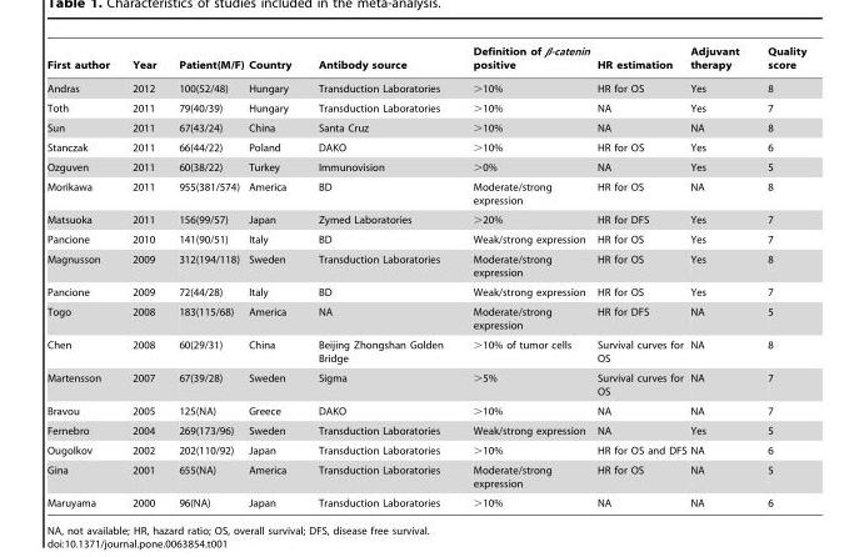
<table><thead><tr><td>First author</td><td>Year</td><td>Patient(M/F)</td><td>Country</td><td>Antibody source</td><td>Definition of β-catenin positive</td><td>HR estimation</td><td>Adjuvant therapy</td><td>Quality score</td></tr></thead><tbody><tr><td>Andras</td><td>2012</td><td>100(52/48)</td><td>Hungary</td><td>Transduction Laboratories</td><td>&gt;10%</td><td>HR for OS</td><td>Yes</td><td>8</td></tr><tr><td>Toth</td><td>2011</td><td>79(40/39)</td><td>Hungary</td><td>Transduction Laboratories</td><td>&gt;10%</td><td>NA</td><td>Yes</td><td>7</td></tr><tr><td>Sun</td><td>2011</td><td>67(43/24)</td><td>China</td><td>Santa Cruz</td><td>&gt;10%</td><td>NA</td><td>NA</td><td>8</td></tr><tr><td>Stanczak</td><td>2011</td><td>66(44/22)</td><td>Poland</td><td>DAKO</td><td>&gt;10%</td><td>HR for OS</td><td>Yes</td><td>6</td></tr><tr><td>Ozguven</td><td>2011</td><td>60(38/22)</td><td>Turkey</td><td>Immunovision</td><td>&gt;0%</td><td>NA</td><td>Yes</td><td>5</td></tr><tr><td>Morikawa</td><td>2011</td><td>955(381/574)</td><td>America</td><td>BD</td><td>Moderate/strong expression</td><td>HR for OS</td><td>NA</td><td>8</td></tr><tr><td>Matsuoka</td><td>2011</td><td>156(99/57)</td><td>Japan</td><td>Zymed Laboratories</td><td>&gt;20%</td><td>HR for DFS</td><td>Yes</td><td>7</td></tr><tr><td>Pancione</td><td>2010</td><td>141(90/51)</td><td>Italy</td><td>BD</td><td>Weak/strong expression</td><td>HR for OS</td><td>Yes</td><td>7</td></tr><tr><td>Magnusson</td><td>2009</td><td>312(194/118)</td><td>Sweden</td><td>Transduction Laboratories</td><td>Moderate/strong expression</td><td>HR for OS</td><td>Yes</td><td>8</td></tr><tr><td>Pancione</td><td>2009</td><td>72(44/28)</td><td>Italy</td><td>BD</td><td>Weak/strong expression</td><td>HR for OS</td><td>Yes</td><td>7</td></tr><tr><td>Togo</td><td>2008</td><td>183(115/68)</td><td>America</td><td>NA</td><td>Moderate/strong expression</td><td>HR for DFS</td><td>NA</td><td>5</td></tr><tr><td>Chen</td><td>2008</td><td>60(29/31)</td><td>China</td><td>Beijing Zhongshan Golden Bridge</td><td>&gt;10% of tumor cells</td><td>Survival curves for OS</td><td>NA</td><td>8</td></tr><tr><td>Martensson</td><td>2007</td><td>67(39/28)</td><td>Sweden</td><td>Sigma</td><td>&gt;5%</td><td>Survival curves for OS</td><td>NA</td><td>7</td></tr><tr><td>Bravou</td><td>2005</td><td>125(NA)</td><td>Greece</td><td>DAKO</td><td>&gt;10%</td><td>NA</td><td>NA</td><td>7</td></tr><tr><td>Fernebro</td><td>2004</td><td>269(173/96)</td><td>Sweden</td><td>Transduction Laboratories</td><td>Weak/strong expression</td><td>NA</td><td>Yes</td><td>5</td></tr><tr><td>Ougolkov</td><td>2002</td><td>202(110/92)</td><td>Japan</td><td>Transduction Laboratories</td><td>&gt;10%</td><td>HR for OS and DFS</td><td>NA</td><td>6</td></tr><tr><td>Gina</td><td>2001</td><td>655(NA)</td><td>America</td><td>Transduction Laboratories</td><td>Moderate/strong expression</td><td>HR for OS</td><td>NA</td><td>5</td></tr><tr><td>Maruyama</td><td>2000</td><td>96(NA)</td><td>Japan</td><td>Transduction Laboratories</td><td>&gt;10%</td><td>NA</td><td>NA</td><td>6</td></tr></tbody></table>